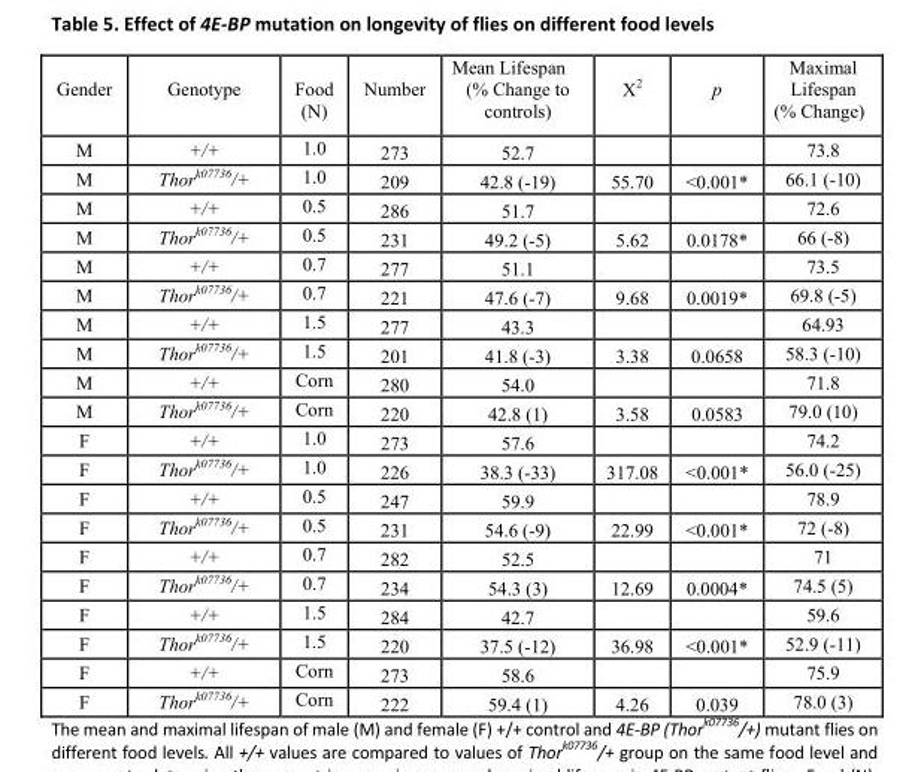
<table><thead><tr><td>Gender</td><td>Genotype</td><td>Food (N)</td><td>Number</td><td>Mean Lifespan (% Change to controls)</td><td>X<sup>2</sup></td><td>p</td><td>Maximal Lifespan (% Change)</td></tr></thead><tbody><tr><td>M</td><td>+/+</td><td>1.0</td><td>273</td><td>52.7</td><td></td><td></td><td>73.8</td></tr><tr><td>M</td><td>Thor<sup>k07736</sup>/+</td><td>1.0</td><td>209</td><td>42.8 (-19)</td><td>55.70</td><td>&lt;0.001*</td><td>66.1 (-10)</td></tr><tr><td>M</td><td>+/+</td><td>0.5</td><td>286</td><td>51.7</td><td></td><td></td><td>72.6</td></tr><tr><td>M</td><td>Thor<sup>k07736</sup>/+</td><td>0.5</td><td>231</td><td>49.2 (-5)</td><td>5.62</td><td>0.0178*</td><td>66 (-8)</td></tr><tr><td>M</td><td>+/+</td><td>0.7</td><td>277</td><td>51.1</td><td></td><td></td><td>73.5</td></tr><tr><td>M</td><td>Thor<sup>k07736</sup>/+</td><td>0.7</td><td>221</td><td>47.6 (-7)</td><td>9.68</td><td>0.0019*</td><td>69.8 (-5)</td></tr><tr><td>M</td><td>+/+</td><td>1.5</td><td>277</td><td>43.3</td><td></td><td></td><td>64.93</td></tr><tr><td>M</td><td>Thor<sup>k07736</sup>/+</td><td>1.5</td><td>201</td><td>41.8 (-3)</td><td>3.38</td><td>0.0658</td><td>58.3 (-10)</td></tr><tr><td>M</td><td>+/+</td><td>Corn</td><td>280</td><td>54.0</td><td></td><td></td><td>71.8</td></tr><tr><td>M</td><td>Thor<sup>k07736</sup>/+</td><td>Corn</td><td>220</td><td>42.8 (1)</td><td>3.58</td><td>0.0583</td><td>79.0 (10)</td></tr><tr><td>F</td><td>+/+</td><td>1.0</td><td>273</td><td>57.6</td><td></td><td></td><td>74.2</td></tr><tr><td>F</td><td>Thor<sup>k07736</sup>/+</td><td>1.0</td><td>226</td><td>38.3 (-33)</td><td>317.08</td><td>&lt;0.001*</td><td>56.0 (-25)</td></tr><tr><td>F</td><td>+/+</td><td>0.5</td><td>247</td><td>59.9</td><td></td><td></td><td>78.9</td></tr><tr><td>F</td><td>Thor<sup>k07736</sup>/+</td><td>0.5</td><td>231</td><td>54.6 (-9)</td><td>22.99</td><td>&lt;0.001*</td><td>72 (-8)</td></tr><tr><td>F</td><td>+/+</td><td>0.7</td><td>282</td><td>52.5</td><td></td><td></td><td>71</td></tr><tr><td>F</td><td>Thor<sup>k07736</sup>/+</td><td>0.7</td><td>234</td><td>54.3 (3)</td><td>12.69</td><td>0.0004*</td><td>74.5 (5)</td></tr><tr><td>F</td><td>+/+</td><td>1.5</td><td>284</td><td>42.7</td><td></td><td></td><td>59.6</td></tr><tr><td>F</td><td>Thor<sup>k07736</sup>/+</td><td>1.5</td><td>220</td><td>37.5 (-12)</td><td>36.98</td><td>&lt;0.001*</td><td>52.9 (-11)</td></tr><tr><td>F</td><td>+/+</td><td>Corn</td><td>273</td><td>58.6</td><td></td><td></td><td>75.9</td></tr><tr><td>F</td><td>Thor<sup>k07736</sup>/+</td><td>Corn</td><td>222</td><td>59.4 (1)</td><td>4.26</td><td>0.039</td><td>78.0 (3)</td></tr></tbody></table>